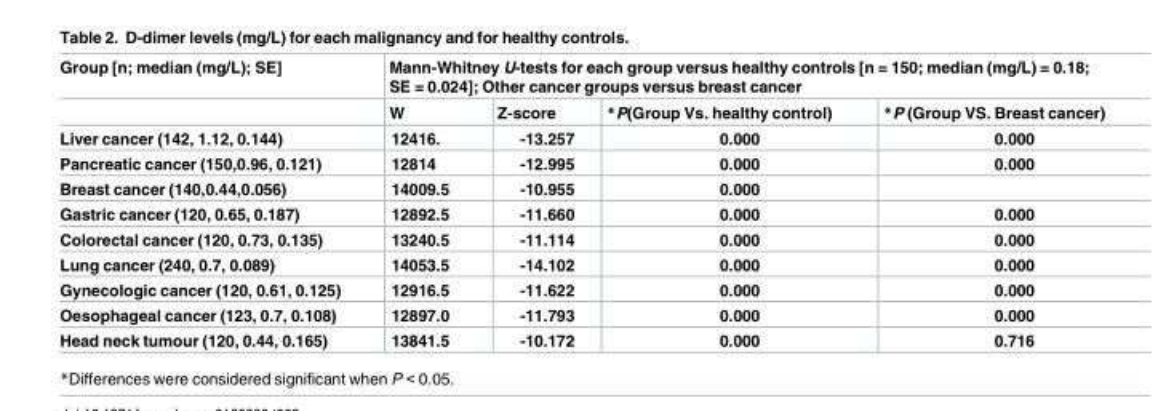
<table><thead><tr><td rowspan="2">Group [n; median (mg/L); SE]</td><td colspan="4">Mann-Whitney U-tests for each group versus healthy controls [n = 150; median (mg/L) = 0.18; SE = 0.024]; Other cancer groups versus breast cancer</td></tr><tr><td>W</td><td>Z-score</td><td>*P(Group Vs. healthy control)</td><td>*P (Group VS. Breast cancer)</td></tr></thead><tbody><tr><td>Liver cancer (142, 1.12, 0.144)</td><td>12416.</td><td>-13.257</td><td>0.000</td><td>0.000</td></tr><tr><td>Pancreatic cancer (150,0.96, 0.121)</td><td>12814</td><td>-12.995</td><td>0.000</td><td>0.000</td></tr><tr><td>Breast cancer (140,0.44,0.056)</td><td>14009.5</td><td>-10.955</td><td>0.000</td><td></td></tr><tr><td>Gastric cancer (120, 0.65, 0.187)</td><td>12892.5</td><td>-11.660</td><td>0.000</td><td>0.000</td></tr><tr><td>Colorectal cancer (120, 0.73, 0.135)</td><td>13240.5</td><td>-11.114</td><td>0.000</td><td>0.000</td></tr><tr><td>Lung cancer (240, 0.7, 0.089)</td><td>14053.5</td><td>-14.102</td><td>0.000</td><td>0.000</td></tr><tr><td>Gynecologic cancer (120, 0.61, 0.125)</td><td>12916.5</td><td>-11.622</td><td>0.000</td><td>0.000</td></tr><tr><td>Oesophageal cancer (123, 0.7, 0.108)</td><td>12897.0</td><td>-11.793</td><td>0.000</td><td>0.000</td></tr><tr><td>Head neck tumour (120, 0.44, 0.165)</td><td>13841.5</td><td>-10.172</td><td>0.000</td><td>0.716</td></tr></tbody></table>